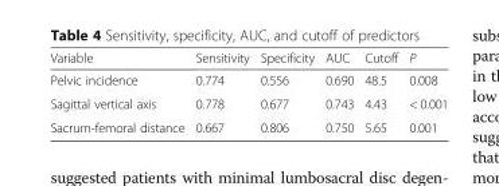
<table><thead><tr><td>Variable</td><td>Sensitivity</td><td>Specificity</td><td>AUC</td><td>Cutoff</td><td>P</td></tr></thead><tbody><tr><td>Pelvic incidence</td><td>0.774</td><td>0.556</td><td>0.690</td><td>48.5</td><td>0.008</td></tr><tr><td>Sagittal vertical axis</td><td>0.778</td><td>0.677</td><td>0.743</td><td>4.43</td><td>&lt; 0.001</td></tr><tr><td>Sacrum-femoral distance</td><td>0.667</td><td>0.806</td><td>0.750</td><td>5.65</td><td>0.001</td></tr></tbody></table>